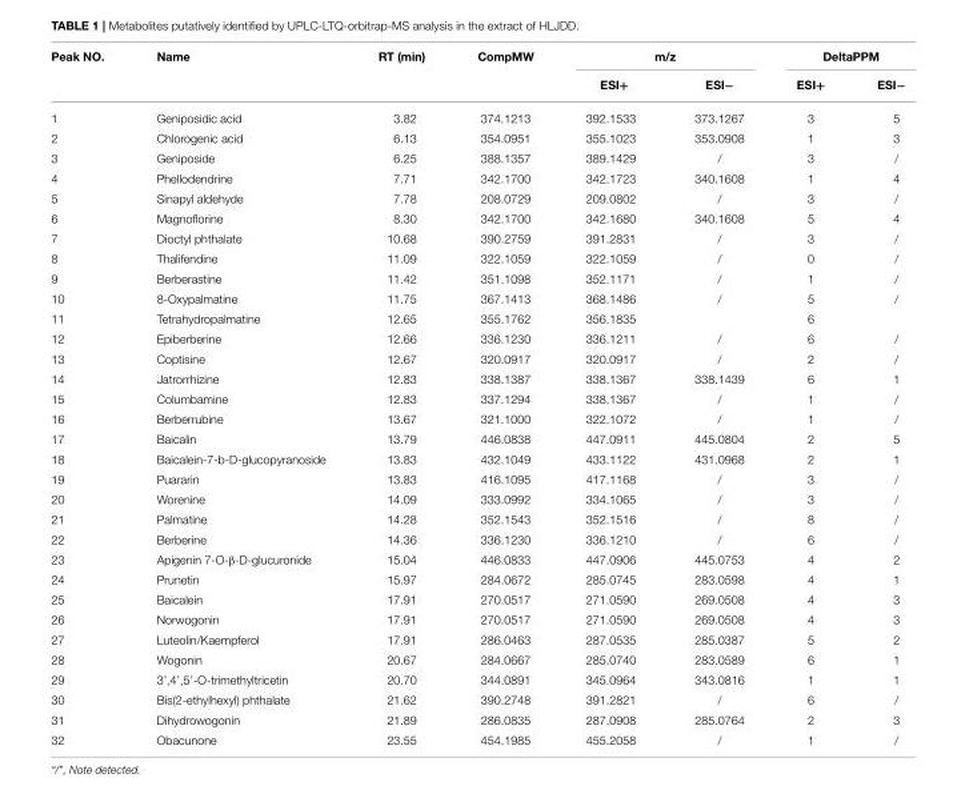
<table><thead><tr><td rowspan="2">Peak NO.</td><td rowspan="2">Name</td><td rowspan="2">RT (min)</td><td rowspan="2">CompMW</td><td colspan="2">m/z</td><td colspan="2">DeltaPPM</td></tr><tr><td>ESI+</td><td>ESI−</td><td>ESI+</td><td>ESI−</td></tr></thead><tbody><tr><td>1</td><td>Geniposidic acid</td><td>3.82</td><td>374.1213</td><td>392.1533</td><td>373.1267</td><td>3</td><td>5</td></tr><tr><td>2</td><td>Chlorogenic acid</td><td>6.13</td><td>354.0951</td><td>355.1023</td><td>353.0908</td><td>1</td><td>3</td></tr><tr><td>3</td><td>Geniposide</td><td>6.25</td><td>388.1357</td><td>389.1429</td><td>/</td><td>3</td><td>/</td></tr><tr><td>4</td><td>Phellodendrine</td><td>7.71</td><td>342.1700</td><td>342.1723</td><td>340.1608</td><td>1</td><td>4</td></tr><tr><td>5</td><td>Sinapyl aldehyde</td><td>7.78</td><td>208.0729</td><td>209.0802</td><td>/</td><td>3</td><td>/</td></tr><tr><td>6</td><td>Magnoflorine</td><td>8.30</td><td>342.1700</td><td>342.1680</td><td>340.1608</td><td>5</td><td>4</td></tr><tr><td>7</td><td>Dioctyl phthalate</td><td>10.68</td><td>390.2759</td><td>391.2831</td><td>/</td><td>3</td><td>/</td></tr><tr><td>8</td><td>Thalifendine</td><td>11.09</td><td>322.1059</td><td>322.1059</td><td>/</td><td>0</td><td>/</td></tr><tr><td>9</td><td>Berberastine</td><td>11.42</td><td>351.1098</td><td>352.1171</td><td>/</td><td>1</td><td>/</td></tr><tr><td>10</td><td>8-Oxypalmatine</td><td>11.75</td><td>367.1413</td><td>368.1486</td><td>/</td><td>5</td><td>/</td></tr><tr><td>11</td><td>Tetrahydropalmatine</td><td>12.65</td><td>355.1762</td><td>356.1835</td><td></td><td>6</td><td></td></tr><tr><td>12</td><td>Epiberberine</td><td>12.66</td><td>336.1230</td><td>336.1211</td><td>/</td><td>6</td><td>/</td></tr><tr><td>13</td><td>Coptisine</td><td>12.67</td><td>320.0917</td><td>320.0917</td><td>/</td><td>2</td><td>/</td></tr><tr><td>14</td><td>Jatrorrhizine</td><td>12.83</td><td>338.1387</td><td>338.1367</td><td>338.1439</td><td>6</td><td>1</td></tr><tr><td>15</td><td>Columbamine</td><td>12.83</td><td>337.1294</td><td>338.1367</td><td>/</td><td>1</td><td>/</td></tr><tr><td>16</td><td>Berberrubine</td><td>13.67</td><td>321.1000</td><td>322.1072</td><td>/</td><td>1</td><td>/</td></tr><tr><td>17</td><td>Baicalin</td><td>13.79</td><td>446.0838</td><td>447.0911</td><td>445.0804</td><td>2</td><td>5</td></tr><tr><td>18</td><td>Baicalein-7-b-D-glucopyranoside</td><td>13.83</td><td>432.1049</td><td>433.1122</td><td>431.0968</td><td>2</td><td>1</td></tr><tr><td>19</td><td>Puararin</td><td>13.83</td><td>416.1095</td><td>417.1168</td><td>/</td><td>3</td><td>/</td></tr><tr><td>20</td><td>Worenine</td><td>14.09</td><td>333.0992</td><td>334.1065</td><td>/</td><td>3</td><td>/</td></tr><tr><td>21</td><td>Palmatine</td><td>14.28</td><td>352.1543</td><td>352.1516</td><td>/</td><td>8</td><td>/</td></tr><tr><td>22</td><td>Berberine</td><td>14.36</td><td>336.1230</td><td>336.1210</td><td>/</td><td>6</td><td>/</td></tr><tr><td>23</td><td>Apigenin 7-O-β-D-glucuronide</td><td>15.04</td><td>446.0833</td><td>447.0906</td><td>445.0753</td><td>4</td><td>2</td></tr><tr><td>24</td><td>Prunetin</td><td>15.97</td><td>284.0672</td><td>285.0745</td><td>283.0598</td><td>4</td><td>1</td></tr><tr><td>25</td><td>Baicalein</td><td>17.91</td><td>270.0517</td><td>271.0590</td><td>269.0508</td><td>4</td><td>3</td></tr><tr><td>26</td><td>Norwogonin</td><td>17.91</td><td>270.0517</td><td>271.0590</td><td>269.0508</td><td>4</td><td>3</td></tr><tr><td>27</td><td>Luteolin/Kaempferol</td><td>17.91</td><td>286.0463</td><td>287.0535</td><td>285.0387</td><td>5</td><td>2</td></tr><tr><td>28</td><td>Wogonin</td><td>20.67</td><td>284.0667</td><td>285.0740</td><td>283.0589</td><td>6</td><td>1</td></tr><tr><td>29</td><td>3’,4’,5’-O-trimethyltricetin</td><td>20.70</td><td>344.0891</td><td>345.0964</td><td>343.0816</td><td>1</td><td>1</td></tr><tr><td>30</td><td>Bis(2-ethylhexyl) phthalate</td><td>21.62</td><td>390.2748</td><td>391.2821</td><td>/</td><td>6</td><td>/</td></tr><tr><td>31</td><td>Dihydrowogonin</td><td>21.89</td><td>286.0835</td><td>287.0908</td><td>285.0764</td><td>2</td><td>3</td></tr><tr><td>32</td><td>Obacunone</td><td>23.55</td><td>454.1985</td><td>455.2058</td><td>/</td><td>1</td><td>/</td></tr></tbody></table>